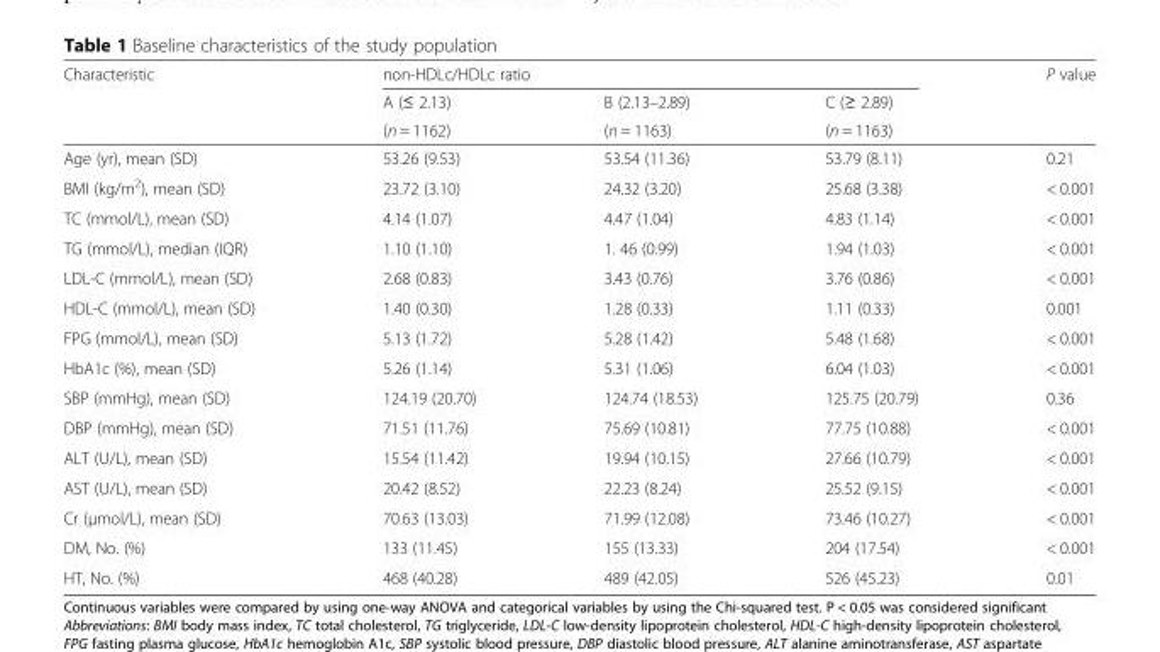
<table><thead><tr><td rowspan="3">Characteristic</td><td colspan="3">non-HDLc/HDLc ratio</td><td rowspan="3">P value</td></tr><tr><td rowspan="2">A (≤ 2.13) (n = 1162)</td><td rowspan="2">B (2.13–2.89) (n = 1163)</td><td rowspan="2">C (≥ 2.89) (n = 1163)</td></tr><tr></tr></thead><tbody><tr><td>Age (yr), mean (SD)</td><td>53.26 (9.53)</td><td>53.54 (11.36)</td><td>53.79 (8.11)</td><td>0.21</td></tr><tr><td>BMI (kg/m<sup>2</sup>), mean (SD)</td><td>23.72 (3.10)</td><td>24.32 (3.20)</td><td>25.68 (3.38)</td><td>&lt; 0.001</td></tr><tr><td>TC (mmol/L), mean (SD)</td><td>4.14 (1.07)</td><td>4.47 (1.04)</td><td>4.83 (1.14)</td><td>&lt; 0.001</td></tr><tr><td>TG (mmol/L), median (IQR)</td><td>1.10 (1.10)</td><td>1. 46 (0.99)</td><td>1.94 (1.03)</td><td>&lt; 0.001</td></tr><tr><td>LDL-C (mmol/L), mean (SD)</td><td>2.68 (0.83)</td><td>3.43 (0.76)</td><td>3.76 (0.86)</td><td>&lt; 0.001</td></tr><tr><td>HDL-C (mmol/L), mean (SD)</td><td>1.40 (0.30)</td><td>1.28 (0.33)</td><td>1.11 (0.33)</td><td>0.001</td></tr><tr><td>FPG (mmol/L), mean (SD)</td><td>5.13 (1.72)</td><td>5.28 (1.42)</td><td>5.48 (1.68)</td><td>&lt; 0.001</td></tr><tr><td>HbA1c (%), mean (SD)</td><td>5.26 (1.14)</td><td>5.31 (1.06)</td><td>6.04 (1.03)</td><td>&lt; 0.001</td></tr><tr><td>SBP (mmHg), mean (SD)</td><td>124.19 (20.70)</td><td>124.74 (18.53)</td><td>125.75 (20.79)</td><td>0.36</td></tr><tr><td>DBP (mmHg), mean (SD)</td><td>71.51 (11.76)</td><td>75.69 (10.81)</td><td>77.75 (10.88)</td><td>&lt; 0.001</td></tr><tr><td>ALT (U/L), mean (SD)</td><td>15.54 (11.42)</td><td>19.94 (10.15)</td><td>27.66 (10.79)</td><td>&lt; 0.001</td></tr><tr><td>AST (U/L), mean (SD)</td><td>20.42 (8.52)</td><td>22.23 (8.24)</td><td>25.52 (9.15)</td><td>&lt; 0.001</td></tr><tr><td>Cr (μmol/L), mean (SD)</td><td>70.63 (13.03)</td><td>71.99 (12.08)</td><td>73.46 (10.27)</td><td>&lt; 0.001</td></tr><tr><td>DM, No. (%)</td><td>133 (11.45)</td><td>155 (13.33)</td><td>204 (17.54)</td><td>&lt; 0.001</td></tr><tr><td>HT, No. (%)</td><td>468 (40.28)</td><td>489 (42.05)</td><td>526 (45.23)</td><td>0.01</td></tr></tbody></table>